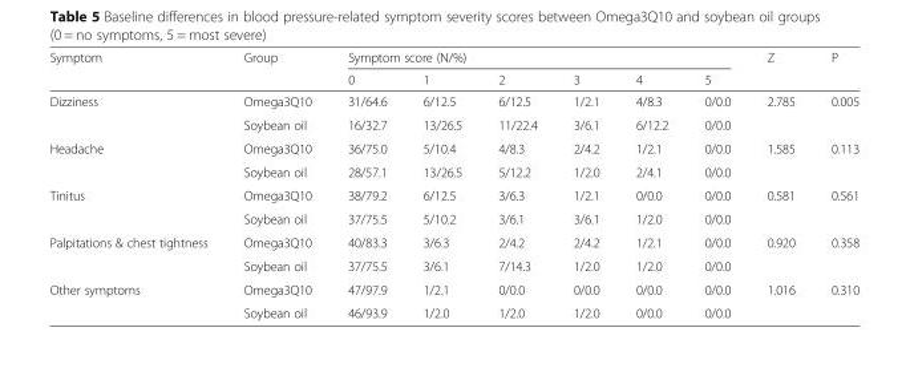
<table><thead><tr><td rowspan="2">Symptom</td><td rowspan="2">Group</td><td colspan="6">Symptom score (N/%)</td><td rowspan="2">Z</td><td rowspan="2">P</td></tr><tr><td>0</td><td>1</td><td>2</td><td>3</td><td>4</td><td>5</td></tr></thead><tbody><tr><td rowspan="2">Dizziness</td><td>Omega3Q10</td><td>31/64.6</td><td>6/12.5</td><td>6/12.5</td><td>1/2.1</td><td>4/8.3</td><td>0/0.0</td><td rowspan="2">2.785</td><td rowspan="2">0.005</td></tr><tr><td>Soybean oil</td><td>16/32.7</td><td>13/26.5</td><td>11/22.4</td><td>3/6.1</td><td>6/12.2</td><td>0/0.0</td></tr><tr><td rowspan="2">Headache</td><td>Omega3Q10</td><td>36/75.0</td><td>5/10.4</td><td>4/8.3</td><td>2/4.2</td><td>1/2.1</td><td>0/0.0</td><td rowspan="2">1.585</td><td rowspan="2">0.113</td></tr><tr><td>Soybean oil</td><td>28/57.1</td><td>13/26.5</td><td>5/12.2</td><td>1/2.0</td><td>2/4.1</td><td>0/0.0</td></tr><tr><td rowspan="2">Tinitus</td><td>Omega3Q10</td><td>38/79.2</td><td>6/12.5</td><td>3/6.3</td><td>1/2.1</td><td>0/0.0</td><td>0/0.0</td><td rowspan="2">0.581</td><td rowspan="2">0.561</td></tr><tr><td>Soybean oil</td><td>37/75.5</td><td>5/10.2</td><td>3/6.1</td><td>3/6.1</td><td>1/2.0</td><td>0/0.0</td></tr><tr><td rowspan="2">Palpitations &amp; chest tightness</td><td>Omega3Q10</td><td>40/83.3</td><td>3/6.3</td><td>2/4.2</td><td>2/4.2</td><td>1/2.1</td><td>0/0.0</td><td rowspan="2">0.920</td><td rowspan="2">0.358</td></tr><tr><td>Soybean oil</td><td>37/75.5</td><td>3/6.1</td><td>7/14.3</td><td>1/2.0</td><td>1/2.0</td><td>0/0.0</td></tr><tr><td rowspan="2">Other symptoms</td><td>Omega3Q10</td><td>47/97.9</td><td>1/2.1</td><td>0/0.0</td><td>0/0.0</td><td>0/0.0</td><td>0/0.0</td><td rowspan="2">1.016</td><td rowspan="2">0.310</td></tr><tr><td>Soybean oil</td><td>46/93.9</td><td>1/2.0</td><td>1/2.0</td><td>1/2.0</td><td>0/0.0</td><td>0/0.0</td></tr></tbody></table>